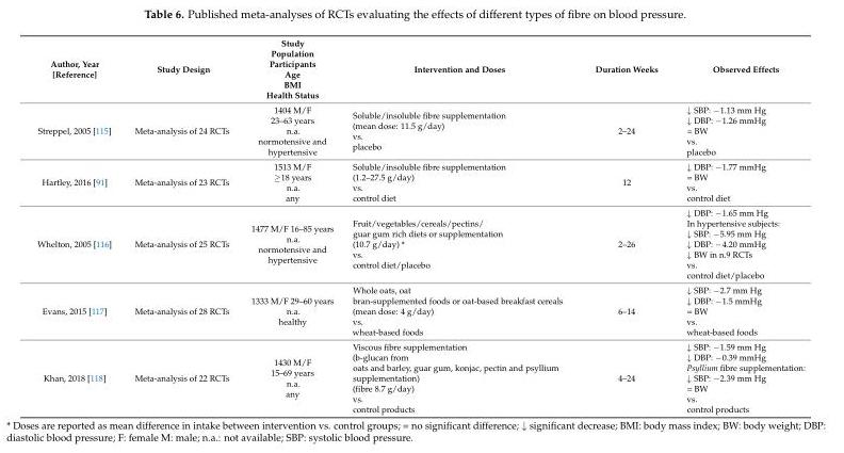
<table><thead><tr><td>Author, Year [Reference]</td><td>Study Design</td><td>Study Population Participants Age BMI Health Status</td><td>Intervention and Doses</td><td>Duration Weeks</td><td>Observed Effects</td></tr></thead><tbody><tr><td>Streppel, 2005 [115]</td><td>Meta-analysis of 24 RCTs</td><td>1404 M/F 23–63 years n.a. normotensive and hypertensive</td><td>Soluble/insoluble fibre supplementation (mean dose: 11.5 g/day) vs. placebo</td><td>2–24</td><td>↓ SBP: −1.13 mm Hg ↓ DBP: −1.26 mmHg = BW vs. placebo</td></tr><tr><td>Hartley, 2016 [91]</td><td>Meta-analysis of 23 RCTs</td><td>1513 M/F ≥18 years n.a. any</td><td>Soluble/insoluble fibre supplementation (1.2–27.5 g/day) vs. control diet</td><td>12</td><td>↓ DBP: −1.77 mmHg = BW vs. control diet</td></tr><tr><td>Whelton, 2005 [116]</td><td>Meta-analysis of 25 RCTs</td><td>1477 M/F 16–85 years n.a. normotensive and hypertensive</td><td>Fruit/vegetables/cereals/pectins/ guar gum rich diets or supplementation (10.7 g/day) * vs. control diet/placebo</td><td>2–26</td><td>↓ DBP: −1.65 mm Hg In hypertensive subjects: ↓ SBP: −5.95 mm Hg ↓ DBP: −4.20 mmHg ↓ BW in n.9 RCTs vs. control diet/placebo</td></tr><tr><td>Evans, 2015 [117]</td><td>Meta-analysis of 28 RCTs</td><td>1333 M/F 29–60 years n.a. healthy</td><td>Whole oats, oat bran-supplemented foods or oat-based breakfast cereals (mean dose: 4 g/day) vs. wheat-based foods</td><td>6–14</td><td>↓ SBP: −2.7 mm Hg ↓ DBP: −1.5 mmHg = BW vs. wheat-based foods</td></tr><tr><td>Khan, 2018 [118]</td><td>Meta-analysis of 22 RCTs</td><td>1430 M/F 15–69 years n.a. any</td><td>Viscous fibre supplementation (b-glucan from oats and barley, guar gum, konjac, pectin and psyllium supplementation) (fibre 8.7 g/day) vs. control products</td><td>4–24</td><td>↓ SBP: −1.59 mm Hg ↓ DBP: −0.39 mmHg Psyllium fibre supplementation: ↓ SBP: −2.39 mm Hg = BW vs. control products</td></tr></tbody></table>